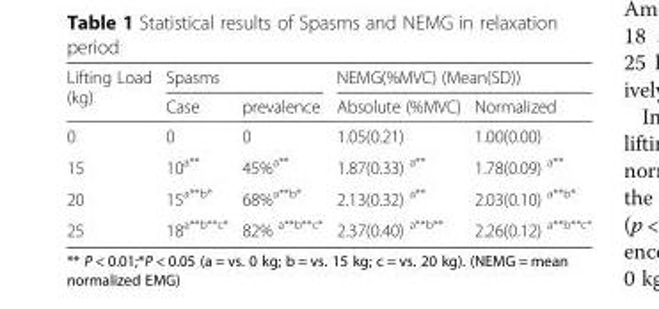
<table><thead><tr><td rowspan="2">Lifting Load (kg)</td><td colspan="2">Spasms</td><td colspan="2">NEMG(%MVC) (Mean(SD))</td></tr><tr><td>Case</td><td>prevalence</td><td>Absolute (%MVC)</td><td>Normalized</td></tr></thead><tbody><tr><td>0</td><td>0</td><td>0</td><td>1.05(0.21)</td><td>1.00(0.00)</td></tr><tr><td>15</td><td>10<sup>a**</sup></td><td>45%<sup>a**</sup></td><td>1.87(0.33) <sup>a**</sup></td><td>1.78(0.09) <sup>a**</sup></td></tr><tr><td>20</td><td>15<sup>a**b*</sup></td><td>68%<sup>a**b*</sup></td><td>2.13(0.32) <sup>a**</sup></td><td>2.03(0.10) <sup>a**b*</sup></td></tr><tr><td>25</td><td>18<sup>a**b**c*</sup></td><td>82% <sup>a**b**c*</sup></td><td>2.37(0.40) <sup>a**b**</sup></td><td>2.26(0.12) <sup>a**b**c*</sup></td></tr></tbody></table>